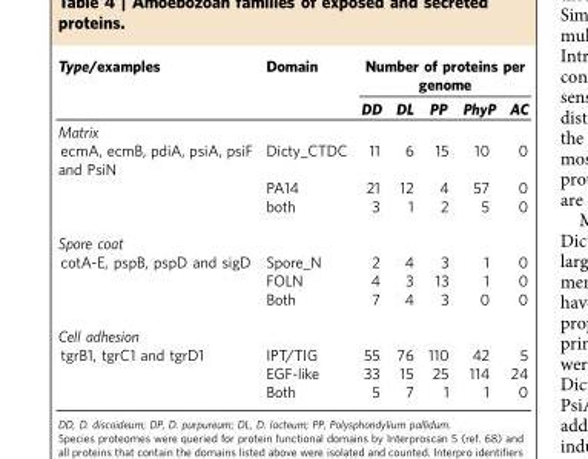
<table><thead><tr><td rowspan="2">Type/examples</td><td rowspan="2">Domain</td><td colspan="5">Number of proteins per genome</td></tr><tr><td>DD</td><td>DL</td><td>PP</td><td>PhyP</td><td>AC</td></tr></thead><tbody><tr><td colspan="7">Matrix</td></tr><tr><td rowspan="3">ecmA, ecmB, pdiA, psiA, psiF and PsiN</td><td>Dicty_CTDC</td><td>11</td><td>6</td><td>15</td><td>10</td><td>0</td></tr><tr><td>PA14</td><td>21</td><td>12</td><td>4</td><td>57</td><td>0</td></tr><tr><td>both</td><td>3</td><td>1</td><td>2</td><td>5</td><td>0</td></tr><tr><td colspan="7">Spore coat</td></tr><tr><td rowspan="3">cotA-E, pspB, pspD and sigD</td><td>Spore_N</td><td>2</td><td>4</td><td>3</td><td>1</td><td>0</td></tr><tr><td>FOLN</td><td>4</td><td>3</td><td>13</td><td>1</td><td>0</td></tr><tr><td>Both</td><td>7</td><td>4</td><td>3</td><td>0</td><td>0</td></tr><tr><td colspan="7">Cell adhesion</td></tr><tr><td rowspan="3">tgrB1, tgrC1 and tgrD1</td><td>IPT/TIG</td><td>55</td><td>76</td><td>110</td><td>42</td><td>5</td></tr><tr><td>EGF-like</td><td>33</td><td>15</td><td>25</td><td>114</td><td>24</td></tr><tr><td>Both</td><td>5</td><td>7</td><td>1</td><td>1</td><td>0</td></tr></tbody></table>